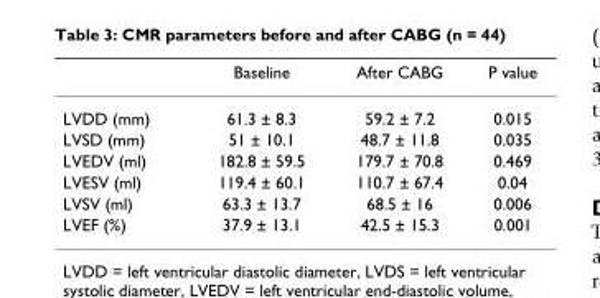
<table><thead><tr><td></td><td>Baseline</td><td>After CABG</td><td>P value</td></tr></thead><tbody><tr><td>LVDD (mm)</td><td>61.3 ± 8.3</td><td>59.2 ± 7.2</td><td>0.015</td></tr><tr><td>LVSD (mm)</td><td>51 ± 10.1</td><td>48.7 ± 11.8</td><td>0.035</td></tr><tr><td>LVEDV (ml)</td><td>182.8 ± 59.5</td><td>179.7 ± 70.8</td><td>0.469</td></tr><tr><td>LVESV (ml)</td><td>119.4 ± 60.1</td><td>110.7 ± 67.4</td><td>0.04</td></tr><tr><td>LVSV (ml)</td><td>63.3 ± 13.7</td><td>68.5 ± 16</td><td>0.006</td></tr><tr><td>LVEF (%)</td><td>37.9 ± 13.1</td><td>42.5 ± 15.3</td><td>0.001</td></tr></tbody></table>